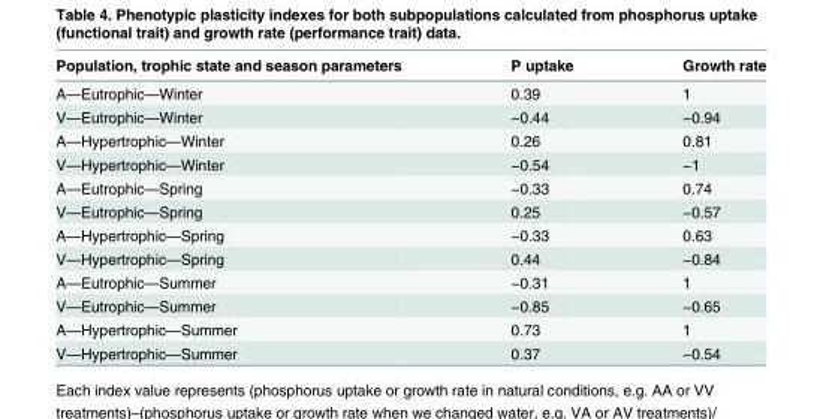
<table><thead><tr><td>Population, trophic state and season parameters</td><td>P uptake</td><td>Growth rate</td></tr></thead><tbody><tr><td>A—Eutrophic—Winter</td><td>0.39</td><td>1</td></tr><tr><td>V—Eutrophic—Winter</td><td>−0.44</td><td>−0.94</td></tr><tr><td>A—Hypertrophic—Winter</td><td>0.26</td><td>0.81</td></tr><tr><td>V—Hypertrophic—Winter</td><td>−0.54</td><td>−1</td></tr><tr><td>A—Eutrophic—Spring</td><td>−0.33</td><td>0.74</td></tr><tr><td>V—Eutrophic—Spring</td><td>0.25</td><td>−0.57</td></tr><tr><td>A—Hypertrophic—Spring</td><td>−0.33</td><td>0.63</td></tr><tr><td>V—Hypertrophic—Spring</td><td>0.44</td><td>−0.84</td></tr><tr><td>A—Eutrophic—Summer</td><td>−0.31</td><td>1</td></tr><tr><td>V—Eutrophic—Summer</td><td>−0.85</td><td>−0.65</td></tr><tr><td>A—Hypertrophic—Summer</td><td>0.73</td><td>1</td></tr><tr><td>V—Hypertrophic—Summer</td><td>0.37</td><td>−0.54</td></tr></tbody></table>